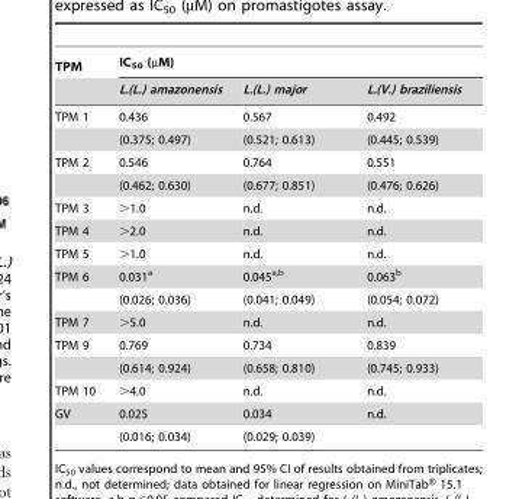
<table><thead><tr><td rowspan="2">TPM</td><td colspan="3">IC<sub>50</sub> (µM)</td></tr><tr><td>L.(L.) amazonensis</td><td>L.(L.) major</td><td>L.(V.) braziliensis</td></tr></thead><tbody><tr><td rowspan="2">TPM 1</td><td>0.436</td><td>0.567</td><td>0.492</td></tr><tr><td>(0.375; 0.497)</td><td>(0.521; 0.613)</td><td>(0.445; 0.539)</td></tr><tr><td rowspan="2">TPM 2</td><td>0.546</td><td>0.764</td><td>0.551</td></tr><tr><td>(0.462; 0.630)</td><td>(0.677; 0.851)</td><td>(0.476; 0.626)</td></tr><tr><td>TPM 3</td><td>&gt;1.0</td><td>n.d.</td><td>n.d.</td></tr><tr><td>TPM 4</td><td>&gt;2.0</td><td>n.d.</td><td>n.d.</td></tr><tr><td>TPM 5</td><td>&gt;1.0</td><td>n.d.</td><td>n.d.</td></tr><tr><td rowspan="2">TPM 6</td><td>0.031<sup>a</sup></td><td>0.045<sup>a,b</sup></td><td>0.063<sup>b</sup></td></tr><tr><td>(0.026; 0.036)</td><td>(0.041; 0.049)</td><td>(0.054; 0.072)</td></tr><tr><td>TPM 7</td><td>&gt;5.0</td><td>n.d.</td><td>n.d.</td></tr><tr><td rowspan="2">TPM 9</td><td>0.769</td><td>0.734</td><td>0.839</td></tr><tr><td>(0.614; 0.924)</td><td>(0.658; 0.810)</td><td>(0.745; 0.933)</td></tr><tr><td>TPM 10</td><td>&gt;4.0</td><td>n.d.</td><td>n.d.</td></tr><tr><td rowspan="2">GV</td><td>0.025</td><td>0.034</td><td>n.d.</td></tr><tr><td>(0.016; 0.034)</td><td>(0.029; 0.039)</td><td></td></tr></tbody></table>